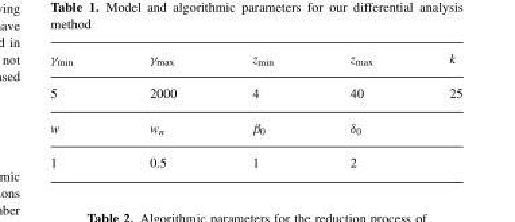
<table><thead><tr><td>γ<sub>min</sub></td><td>γ<sub>max</sub></td><td>z<sub>min</sub></td><td>z<sub>max</sub></td><td>k</td></tr></thead><tbody><tr><td>5</td><td>2000</td><td>4</td><td>40</td><td>25</td></tr><tr><td>w</td><td>w<sub>n</sub></td><td>β<sub>0</sub></td><td>δ<sub>0</sub></td><td></td></tr><tr><td>1</td><td>0.5</td><td>1</td><td>2</td><td></td></tr></tbody></table>